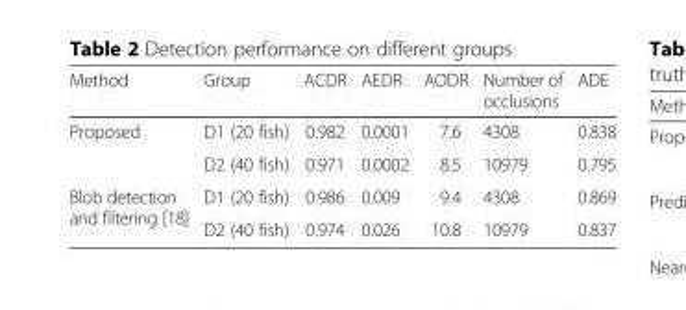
<table><thead><tr><td>Method</td><td>Group</td><td>ACDR</td><td>AEDR</td><td>AODR</td><td>Number of occlusions</td><td>ADE</td></tr></thead><tbody><tr><td rowspan="2">Proposed</td><td>D1 (20 fish)</td><td>0.982</td><td>0.0001</td><td>7.6</td><td>4308</td><td>0.838</td></tr><tr><td>D2 (40 fish)</td><td>0.971</td><td>0.0002</td><td>8.5</td><td>10979</td><td>0.795</td></tr><tr><td rowspan="2">Blob detection and filtering [18]</td><td>D1 (20 fish)</td><td>0.986</td><td>0.009</td><td>9.4</td><td>4308</td><td>0.869</td></tr><tr><td>D2 (40 fish)</td><td>0.974</td><td>0.026</td><td>10.8</td><td>10979</td><td>0.837</td></tr></tbody></table>